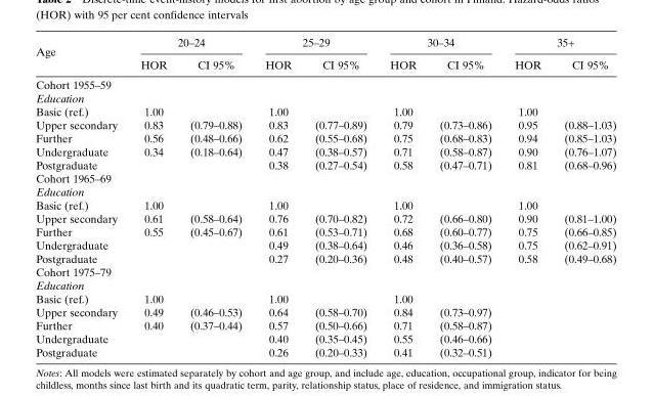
<table><thead><tr><td rowspan="2">Age</td><td colspan="2">20–24</td><td colspan="2">25–29</td><td colspan="2">30–34</td><td colspan="2">35+</td></tr><tr><td>HOR</td><td>CI 95%</td><td>HOR</td><td>CI 95%</td><td>HOR</td><td>CI 95%</td><td>HOR</td><td>CI 95%</td></tr></thead><tbody><tr><td colspan="9">Cohort 1955–59</td></tr><tr><td colspan="9">Education</td></tr><tr><td>Basic (ref.)</td><td>1.00</td><td></td><td>1.00</td><td></td><td>1.00</td><td></td><td>1.00</td><td></td></tr><tr><td>Upper secondary</td><td>0.83</td><td>(0.79–0.88)</td><td>0.83</td><td>(0.77–0.89)</td><td>0.79</td><td>(0.73–0.86)</td><td>0.95</td><td>(0.88–1.03)</td></tr><tr><td>Further</td><td>0.56</td><td>(0.48–0.66)</td><td>0.62</td><td>(0.55–0.68)</td><td>0.75</td><td>(0.68–0.83)</td><td>0.94</td><td>(0.85–1.03)</td></tr><tr><td>Undergraduate</td><td>0.34</td><td>(0.18–0.64)</td><td>0.47</td><td>(0.38–0.57)</td><td>0.71</td><td>(0.58–0.87)</td><td>0.90</td><td>(0.76–1.07)</td></tr><tr><td>Postgraduate</td><td></td><td></td><td>0.38</td><td>(0.27–0.54)</td><td>0.58</td><td>(0.47–0.71)</td><td>0.81</td><td>(0.68–0.96)</td></tr><tr><td colspan="9">Cohort 1965–69</td></tr><tr><td colspan="9">Education</td></tr><tr><td>Basic (ref.)</td><td>1.00</td><td></td><td>1.00</td><td></td><td>1.00</td><td></td><td>1.00</td><td></td></tr><tr><td>Upper secondary</td><td>0.61</td><td>(0.58–0.64)</td><td>0.76</td><td>(0.70–0.82)</td><td>0.72</td><td>(0.66–0.80)</td><td>0.90</td><td>(0.81–1.00)</td></tr><tr><td>Further</td><td>0.55</td><td>(0.45–0.67)</td><td>0.61</td><td>(0.53–0.71)</td><td>0.68</td><td>(0.60–0.77)</td><td>0.75</td><td>(0.66–0.85)</td></tr><tr><td>Undergraduate</td><td></td><td></td><td>0.49</td><td>(0.38–0.64)</td><td>0.46</td><td>(0.36–0.58)</td><td>0.75</td><td>(0.62–0.91)</td></tr><tr><td>Postgraduate</td><td></td><td></td><td>0.27</td><td>(0.20–0.36)</td><td>0.48</td><td>(0.40–0.57)</td><td>0.58</td><td>(0.49–0.68)</td></tr><tr><td colspan="9">Cohort 1975–79</td></tr><tr><td colspan="9">Education</td></tr><tr><td>Basic (ref.)</td><td>1.00</td><td></td><td>1.00</td><td></td><td>1.00</td><td></td><td></td><td></td></tr><tr><td>Upper secondary</td><td>0.49</td><td>(0.46–0.53)</td><td>0.64</td><td>(0.58–0.70)</td><td>0.84</td><td>(0.73–0.97)</td><td></td><td></td></tr><tr><td>Further</td><td>0.40</td><td>(0.37–0.44)</td><td>0.57</td><td>(0.50–0.66)</td><td>0.71</td><td>(0.58–0.87)</td><td></td><td></td></tr><tr><td>Undergraduate</td><td></td><td></td><td>0.40</td><td>(0.35–0.45)</td><td>0.55</td><td>(0.46–0.66)</td><td></td><td></td></tr><tr><td>Postgraduate</td><td></td><td></td><td>0.26</td><td>(0.20–0.33)</td><td>0.41</td><td>(0.32–0.51)</td><td></td><td></td></tr></tbody></table>